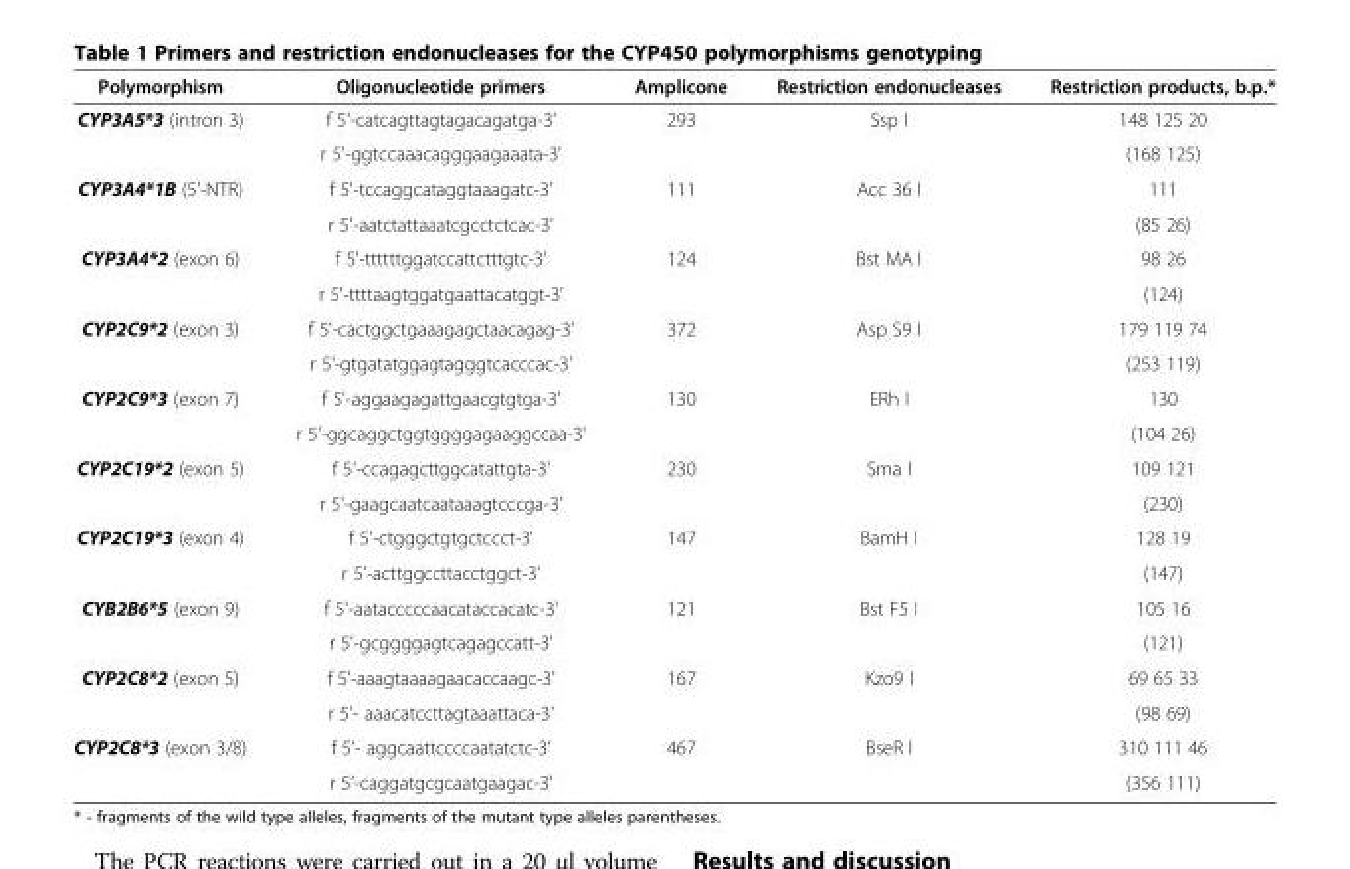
<table><thead><tr><td>Polymorphism</td><td>Oligonucleotide primers</td><td>Amplicone</td><td>Restriction endonucleases</td><td>Restriction products, b.p.*</td></tr></thead><tbody><tr><td rowspan="2">CYP3A5*3 (intron 3)</td><td>f 5&#x27;-catcagttagtagacagatga-3&#x27;</td><td rowspan="2">293</td><td rowspan="2">Ssp I</td><td>148 125 20</td></tr><tr><td>r 5&#x27;-ggtccaaacagggaagaaata-3&#x27;</td><td>(168 125)</td></tr><tr><td rowspan="2">CYP3A4*1B (5&#x27;-NTR)</td><td>f 5&#x27;-tccaggcataggtaaagatc-3&#x27;</td><td rowspan="2">111</td><td rowspan="2">Acc 36 I</td><td>111</td></tr><tr><td>r 5&#x27;-aatctattaaatcgcctctcac-3&#x27;</td><td>(85 26)</td></tr><tr><td rowspan="2">CYP3A4*2 (exon 6)</td><td>f 5&#x27;-ttttttggatccattctttgtc-3&#x27;</td><td rowspan="2">124</td><td rowspan="2">Bst MA I</td><td>98 26</td></tr><tr><td>r 5&#x27;-ttttaagtggatgaattacatggt-3&#x27;</td><td>(124)</td></tr><tr><td rowspan="2">CYP2C9*2 (exon 3)</td><td>f 5&#x27;-cactggctgaaagagctaacagag-3&#x27;</td><td rowspan="2">372</td><td rowspan="2">Asp S9 I</td><td>179 119 74</td></tr><tr><td>r 5&#x27;-gtgatatggagtagggtcacccac-3&#x27;</td><td>(253 119)</td></tr><tr><td rowspan="2">CYP2C9*3 (exon 7)</td><td>f 5&#x27;-aggaagagattgaacgtgtga-3&#x27;</td><td rowspan="2">130</td><td rowspan="2">ERh I</td><td>130</td></tr><tr><td>r 5&#x27;-ggcaggctggtggggagaaggccaa-3&#x27;</td><td>(104 26)</td></tr><tr><td rowspan="2">CYP2C19*2 (exon 5)</td><td>f 5&#x27;-ccagagcttggcatattgta-3&#x27;</td><td rowspan="2">230</td><td rowspan="2">Sma I</td><td>109 121</td></tr><tr><td>r 5&#x27;-gaagcaatcaataaagtcccga-3&#x27;</td><td>(230)</td></tr><tr><td rowspan="2">CYP2C19*3 (exon 4)</td><td>f 5&#x27;-ctgggctgtgctccct-3&#x27;</td><td rowspan="2">147</td><td rowspan="2">BamH I</td><td>128 19</td></tr><tr><td>r 5&#x27;-acttggccttacctggct-3&#x27;</td><td>(147)</td></tr><tr><td rowspan="2">CYB2B6*5 (exon 9)</td><td>f 5&#x27;-aatacccccaacataccacatc-3&#x27;</td><td rowspan="2">121</td><td rowspan="2">Bst F5 I</td><td>105 16</td></tr><tr><td>r 5&#x27;-gcggggagtcagagccatt-3&#x27;</td><td>(121)</td></tr><tr><td rowspan="2">CYP2C8*2 (exon 5)</td><td>f 5’-aaagtaaaagaacaccaagc-3’</td><td rowspan="2">167</td><td rowspan="2">Kzo9 I</td><td>69 65 33</td></tr><tr><td>r 5’- aaacatccttagtaaattaca-3’</td><td>(98 69)</td></tr><tr><td rowspan="2">CYP2C8*3 (exon 3/8)</td><td>f 5’- aggcaattccccaatatctc-3’</td><td rowspan="2">467</td><td rowspan="2">BseR I</td><td>310 111 46</td></tr><tr><td>r 5’-caggatgcgcaatgaagac-3’</td><td>(356 111)</td></tr></tbody></table>